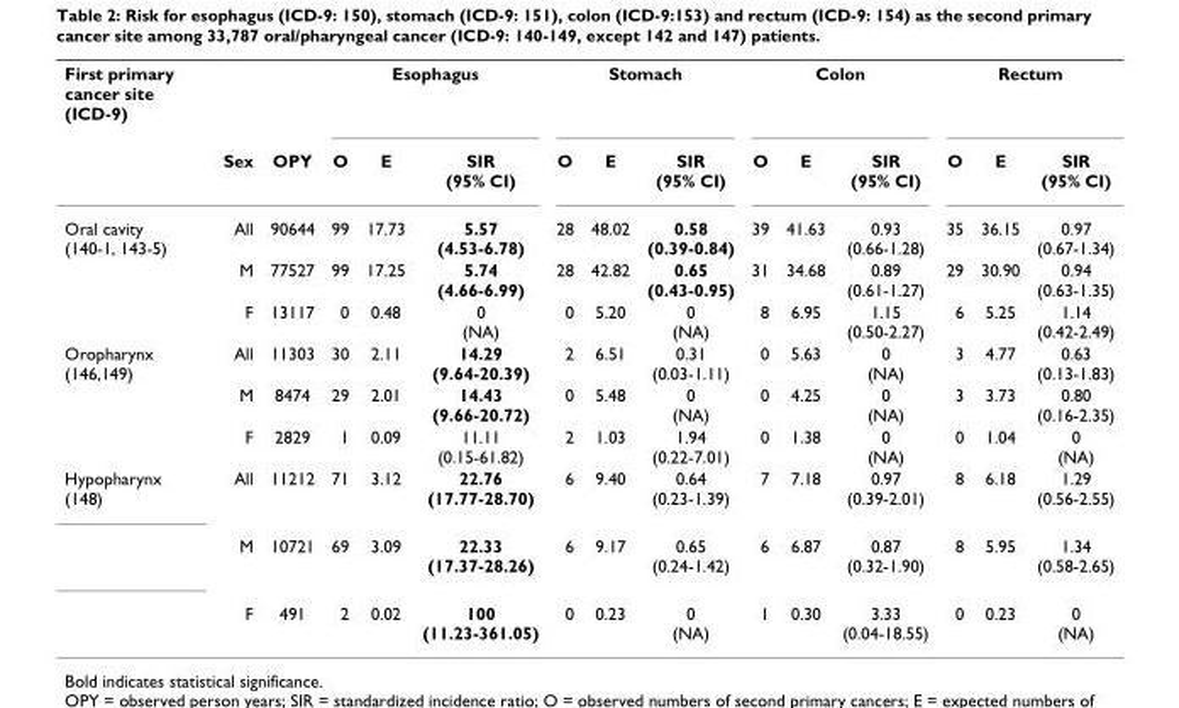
<table><tbody><tr><td rowspan="2">First primary cancer site (ICD-9)</td><td></td><td></td><td colspan="3">Esophagus</td><td colspan="3">Stomach</td><td colspan="3">Colon</td><td colspan="3">Rectum</td></tr><tr><td>Sex</td><td>OPY</td><td>O</td><td>E</td><td>SIR (95% CI)</td><td>O</td><td>E</td><td>SIR (95% CI)</td><td>O</td><td>E</td><td>SIR (95% CI)</td><td>O</td><td>E</td><td>SIR (95% CI)</td></tr><tr><td rowspan="3">Oral cavity (140-1, 143-5)</td><td>All</td><td>90644</td><td>99</td><td>17.73</td><td>5.57 (4.53-6.78)</td><td>28</td><td>48.02</td><td>0.58 (0.39-0.84)</td><td>39</td><td>41.63</td><td>0.93 (0.66-1.28)</td><td>35</td><td>36.15</td><td>0.97 (0.67-1.34)</td></tr><tr><td>M</td><td>77527</td><td>99</td><td>17.25</td><td>5.74 (4.66-6.99)</td><td>28</td><td>42.82</td><td>0.65 (0.43-0.95)</td><td>31</td><td>34.68</td><td>0.89 (0.61-1.27)</td><td>29</td><td>30.90</td><td>0.94 (0.63-1.35)</td></tr><tr><td>F</td><td>13117</td><td>0</td><td>0.48</td><td>0 (NA)</td><td>0</td><td>5.20</td><td>0 (NA)</td><td>8</td><td>6.95</td><td>1.15 (0.50-2.27)</td><td>6</td><td>5.25</td><td>1.14 (0.42-2.49)</td></tr><tr><td rowspan="3">Oropharynx (146,149)</td><td>All</td><td>11303</td><td>30</td><td>2.11</td><td>14.29 (9.64-20.39)</td><td>2</td><td>6.51</td><td>0.31 (0.03-1.11)</td><td>0</td><td>5.63</td><td>0 (NA)</td><td>3</td><td>4.77</td><td>0.63 (0.13-1.83)</td></tr><tr><td>M</td><td>8474</td><td>29</td><td>2.01</td><td>14.43 (9.66-20.72)</td><td>0</td><td>5.48</td><td>0 (NA)</td><td>0</td><td>4.25</td><td>0 (NA)</td><td>3</td><td>3.73</td><td>0.80 (0.16-2.35)</td></tr><tr><td>F</td><td>2829</td><td>1</td><td>0.09</td><td>11.11 (0.15-61.82)</td><td>2</td><td>1.03</td><td>1.94 (0.22-7.01)</td><td>0</td><td>1.38</td><td>0 (NA)</td><td>0</td><td>1.04</td><td>0 (NA)</td></tr><tr><td rowspan="3">Hypopharynx (148)</td><td>All</td><td>11212</td><td>71</td><td>3.12</td><td>22.76 (17.77-28.70)</td><td>6</td><td>9.40</td><td>0.64 (0.23-1.39)</td><td>7</td><td>7.18</td><td>0.97 (0.39-2.01)</td><td>8</td><td>6.18</td><td>1.29 (0.56-2.55)</td></tr><tr><td>M</td><td>10721</td><td>69</td><td>3.09</td><td>22.33 (17.37-28.26)</td><td>6</td><td>9.17</td><td>0.65 (0.24-1.42)</td><td>6</td><td>6.87</td><td>0.87 (0.32-1.90)</td><td>8</td><td>5.95</td><td>1.34 (0.58-2.65)</td></tr><tr><td>F</td><td>491</td><td>2</td><td>0.02</td><td>100 (11.23-361.05)</td><td>0</td><td>0.23</td><td>0 (NA)</td><td>1</td><td>0.30</td><td>3.33 (0.04-18.55)</td><td>0</td><td>0.23</td><td>0 (NA)</td></tr></tbody></table>